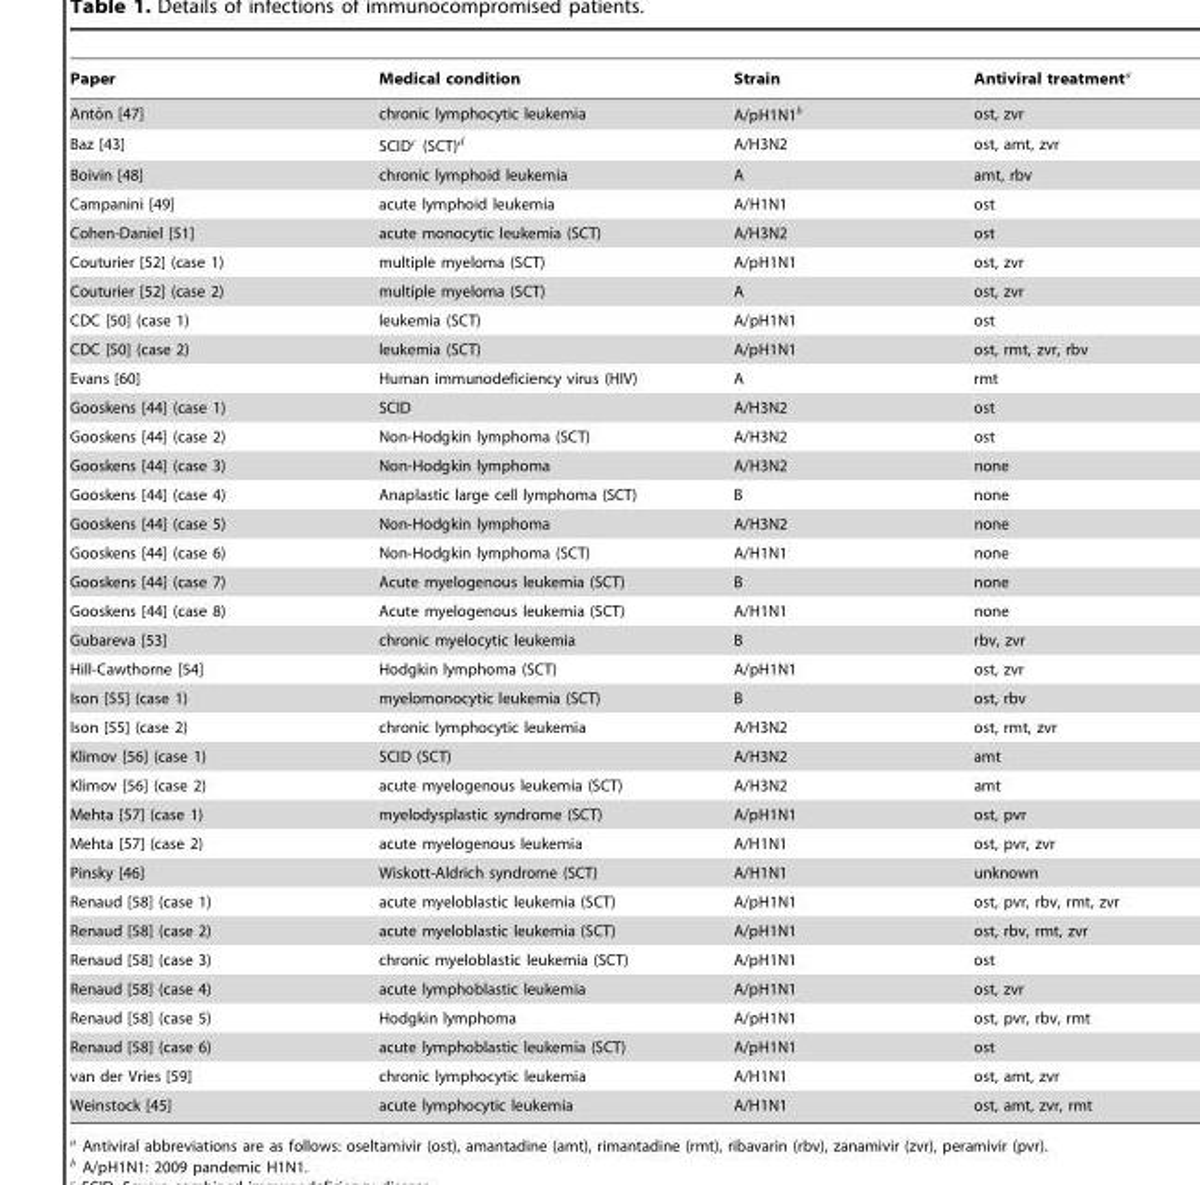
<table><thead><tr><td>Paper</td><td>Medical condition</td><td>Strain</td><td>Antiviral treatmenta</td></tr></thead><tbody><tr><td>Anto´n [47]</td><td>chronic lymphocytic leukemia</td><td>A/pH1N1b</td><td>ost, zvr</td></tr><tr><td>Baz [43]</td><td>SCIDc (SCT)d</td><td>A/H3N2</td><td>ost, amt, zvr</td></tr><tr><td>Boivin [48]</td><td>chronic lymphoid leukemia</td><td>A</td><td>amt, rbv</td></tr><tr><td>Campanini [49]</td><td>acute lymphoid leukemia</td><td>A/H1N1</td><td>ost</td></tr><tr><td>Cohen-Daniel [51]</td><td>acute monocytic leukemia (SCT)</td><td>A/H3N2</td><td>ost</td></tr><tr><td>Couturier [52] (case 1)</td><td>multiple myeloma (SCT)</td><td>A/pH1N1</td><td>ost, zvr</td></tr><tr><td>Couturier [52] (case 2)</td><td>multiple myeloma (SCT)</td><td>A</td><td>ost, zvr</td></tr><tr><td>CDC [50] (case 1)</td><td>leukemia (SCT)</td><td>A/pH1N1</td><td>ost</td></tr><tr><td>CDC [50] (case 2)</td><td>leukemia (SCT)</td><td>A/pH1N1</td><td>ost, rmt, zvr, rbv</td></tr><tr><td>Evans [60]</td><td>Human immunodeficiency virus (HIV)</td><td>A</td><td>rmt</td></tr><tr><td>Gooskens [44] (case 1)</td><td>SCID</td><td>A/H3N2</td><td>ost</td></tr><tr><td>Gooskens [44] (case 2)</td><td>Non-Hodgkin lymphoma (SCT)</td><td>A/H3N2</td><td>ost</td></tr><tr><td>Gooskens [44] (case 3)</td><td>Non-Hodgkin lymphoma</td><td>A/H3N2</td><td>none</td></tr><tr><td>Gooskens [44] (case 4)</td><td>Anaplastic large cell lymphoma (SCT)</td><td>B</td><td>none</td></tr><tr><td>Gooskens [44] (case 5)</td><td>Non-Hodgkin lymphoma</td><td>A/H3N2</td><td>none</td></tr><tr><td>Gooskens [44] (case 6)</td><td>Non-Hodgkin lymphoma (SCT)</td><td>A/H1N1</td><td>none</td></tr><tr><td>Gooskens [44] (case 7)</td><td>Acute myelogenous leukemia (SCT)</td><td>B</td><td>none</td></tr><tr><td>Gooskens [44] (case 8)</td><td>Acute myelogenous leukemia (SCT)</td><td>A/H1N1</td><td>none</td></tr><tr><td>Gubareva [53]</td><td>chronic myelocytic leukemia</td><td>B</td><td>rbv, zvr</td></tr><tr><td>Hill-Cawthorne [54]</td><td>Hodgkin lymphoma (SCT)</td><td>A/pH1N1</td><td>ost, zvr</td></tr><tr><td>Ison [55] (case 1)</td><td>myelomonocytic leukemia (SCT)</td><td>B</td><td>ost, rbv</td></tr><tr><td>Ison [55] (case 2)</td><td>chronic lymphocytic leukemia</td><td>A/H3N2</td><td>ost, rmt, zvr</td></tr><tr><td>Klimov [56] (case 1)</td><td>SCID (SCT)</td><td>A/H3N2</td><td>amt</td></tr><tr><td>Klimov [56] (case 2)</td><td>acute myelogenous leukemia (SCT)</td><td>A/H3N2</td><td>amt</td></tr><tr><td>Mehta [57] (case 1)</td><td>myelodysplastic syndrome (SCT)</td><td>A/pH1N1</td><td>ost, pvr</td></tr><tr><td>Mehta [57] (case 2)</td><td>acute myelogenous leukemia</td><td>A/H1N1</td><td>ost, pvr, zvr</td></tr><tr><td>Pinsky [46]</td><td>Wiskott-Aldrich syndrome (SCT)</td><td>A/H1N1</td><td>unknown</td></tr><tr><td>Renaud [58] (case 1)</td><td>acute myeloblastic leukemia (SCT)</td><td>A/pH1N1</td><td>ost, pvr, rbv, rmt, zvr</td></tr><tr><td>Renaud [58] (case 2)</td><td>acute myeloblastic leukemia (SCT)</td><td>A/pH1N1</td><td>ost, rbv, rmt, zvr</td></tr><tr><td>Renaud [58] (case 3)</td><td>chronic myeloblastic leukemia (SCT)</td><td>A/pH1N1</td><td>ost</td></tr><tr><td>Renaud [58] (case 4)</td><td>acute lymphoblastic leukemia</td><td>A/pH1N1</td><td>ost, zvr</td></tr><tr><td>Renaud [58] (case 5)</td><td>Hodgkin lymphoma</td><td>A/pH1N1</td><td>ost, pvr, rbv, rmt</td></tr><tr><td>Renaud [58] (case 6)</td><td>acute lymphoblastic leukemia (SCT)</td><td>A/pH1N1</td><td>ost</td></tr><tr><td>van der Vries [59]</td><td>chronic lymphocytic leukemia</td><td>A/H1N1</td><td>ost, amt, zvr</td></tr><tr><td>Weinstock [45]</td><td>acute lymphocytic leukemia</td><td>A/H1N1</td><td>ost, amt, zvr, rmt</td></tr></tbody></table>